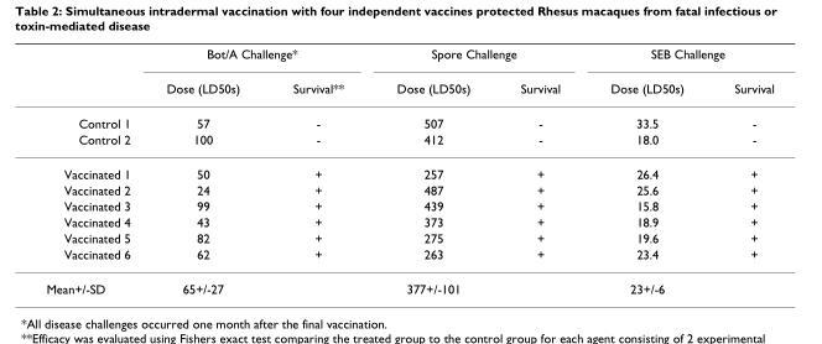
<table><thead><tr><td rowspan="2"></td><td colspan="2">Bot/A Challenge*</td><td colspan="2">Spore Challenge</td><td colspan="2">SEB Challenge</td></tr><tr><td>Dose (LD50s)</td><td>Survival**</td><td>Dose (LD50s)</td><td>Survival</td><td>Dose (LD50s)</td><td>Survival</td></tr></thead><tbody><tr><td>Control 1</td><td>57</td><td>-</td><td>507</td><td>-</td><td>33.5</td><td>-</td></tr><tr><td>Control 2</td><td>100</td><td>-</td><td>412</td><td>-</td><td>18.0</td><td>-</td></tr><tr><td>Vaccinated 1</td><td>50</td><td>+</td><td>257</td><td>+</td><td>26.4</td><td>+</td></tr><tr><td>Vaccinated 2</td><td>24</td><td>+</td><td>487</td><td>+</td><td>25.6</td><td>+</td></tr><tr><td>Vaccinated 3</td><td>99</td><td>+</td><td>439</td><td>+</td><td>15.8</td><td>+</td></tr><tr><td>Vaccinated 4</td><td>43</td><td>+</td><td>373</td><td>+</td><td>18.9</td><td>+</td></tr><tr><td>Vaccinated 5</td><td>82</td><td>+</td><td>275</td><td>+</td><td>19.6</td><td>+</td></tr><tr><td>Vaccinated 6</td><td>62</td><td>+</td><td>263</td><td>+</td><td>23.4</td><td>+</td></tr><tr><td>Mean+/-SD</td><td>65+/-27</td><td></td><td>377+/-101</td><td></td><td>23+/-6</td><td></td></tr></tbody></table>